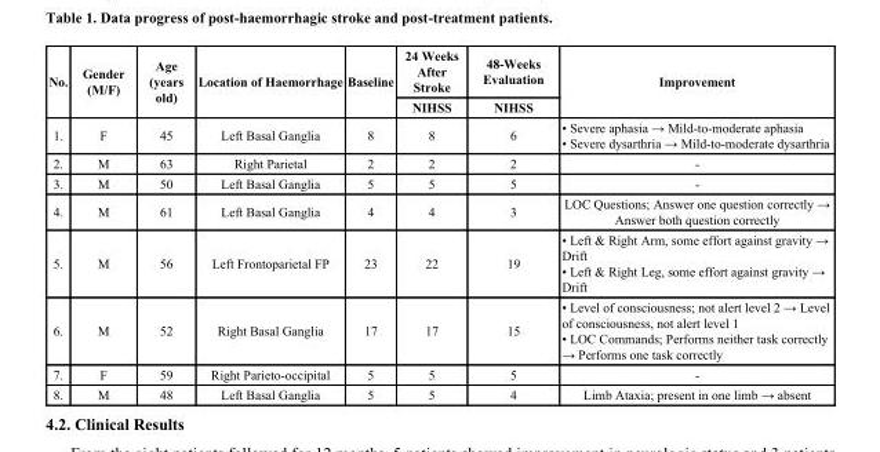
<table><thead><tr><td rowspan="2">No.</td><td rowspan="2">Gender (M/F)</td><td rowspan="2">Age (years old)</td><td rowspan="2">Location of Haemorrhage</td><td rowspan="2">Baseline</td><td rowspan="2">24 Weeks After Stroke NIHSS</td><td rowspan="2">48-Weeks Evaluation NIHSS</td><td rowspan="2">Improvement</td></tr><tr></tr></thead><tbody><tr><td>1.</td><td>F</td><td>45</td><td>Left Basal Ganglia</td><td>8</td><td>8</td><td>6</td><td>• Severe aphasia → Mild-to-moderate aphasia • Severe dysarthria → Mild-to-moderate dysarthria</td></tr><tr><td>2.</td><td>M</td><td>63</td><td>Right Parietal</td><td>2</td><td>2</td><td>2</td><td>-</td></tr><tr><td>3.</td><td>M</td><td>50</td><td>Left Basal Ganglia</td><td>5</td><td>5</td><td>5</td><td>-</td></tr><tr><td>4.</td><td>M</td><td>61</td><td>Left Basal Ganglia</td><td>4</td><td>4</td><td>3</td><td>LOC Questions; Answer one question correctly → Answer both question correctly</td></tr><tr><td>5.</td><td>M</td><td>56</td><td>Left Frontoparietal FP</td><td>23</td><td>22</td><td>19</td><td>• Left &amp; Right Arm, some effort against gravity → Drift • Left &amp; Right Leg, some effort against gravity → Drift</td></tr><tr><td>6.</td><td>M</td><td>52</td><td>Right Basal Ganglia</td><td>17</td><td>17</td><td>15</td><td>• Level of consciousness; not alert level 2 → Level of consciousness, not alert level 1 • LOC Commands; Performs neither task correctly → Performs one task correctly</td></tr><tr><td>7.</td><td>F</td><td>59</td><td>Right Parieto-occipital</td><td>5</td><td>5</td><td>5</td><td>-</td></tr><tr><td>8.</td><td>M</td><td>48</td><td>Left Basal Ganglia</td><td>5</td><td>5</td><td>4</td><td>Limb Ataxia; present in one limb → absent</td></tr></tbody></table>